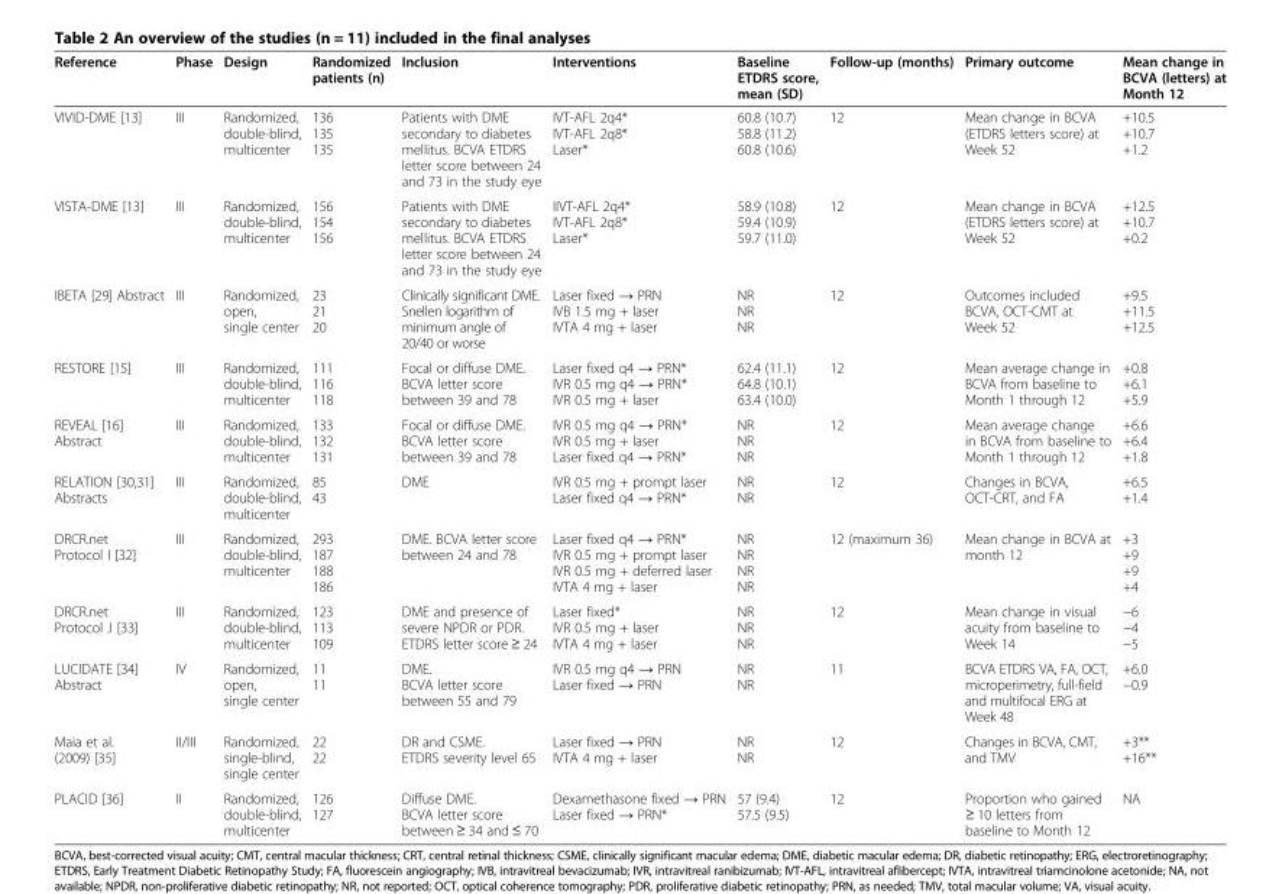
<table><thead><tr><td>Reference</td><td>Phase</td><td>Design</td><td>Randomized patients (n)</td><td>Inclusion</td><td>Interventions</td><td>Baseline ETDRS score, mean (SD)</td><td>Follow-up (months)</td><td>Primary outcome</td><td>Mean change in BCVA (letters) at Month 12</td></tr></thead><tbody><tr><td>VIVID-DME [13]</td><td>III</td><td>Randomized, double-blind, multicenter</td><td>136 135 135</td><td>Patients with DME secondary to diabetes mellitus. BCVA ETDRS letter score between 24 and 73 in the study eye</td><td>IVT-AFL 2q4* IVT-AFL 2q8* Laser*</td><td>60.8 (10.7) 58.8 (11.2) 60.8 (10.6)</td><td>12</td><td>Mean change in BCVA (ETDRS letters score) at Week 52</td><td>+10.5 +10.7 +1.2</td></tr><tr><td>VISTA-DME [13]</td><td>III</td><td>Randomized, double-blind, multicenter</td><td>156 154 156</td><td>Patients with DME secondary to diabetes mellitus. BCVA ETDRS letter score between 24 and 73 in the study eye</td><td>IIVT-AFL 2q4* IVT-AFL 2q8* Laser*</td><td>58.9 (10.8) 59.4 (10.9) 59.7 (11.0)</td><td>12</td><td>Mean change in BCVA (ETDRS letters score) at Week 52</td><td>+12.5 +10.7 +0.2</td></tr><tr><td>IBETA [29] Abstract</td><td>III</td><td>Randomized, open, single center</td><td>23 21 20</td><td>Clinically significant DME. Snellen logarithm of minimum angle of 20/40 or worse</td><td>Laser fixed → PRN IVB 1.5 mg + laser IVTA 4 mg + laser</td><td>NR NR NR</td><td>12</td><td>Outcomes included BCVA, OCT-CMT at Week 52</td><td>+9.5 +11.5 +12.5</td></tr><tr><td>RESTORE [15]</td><td>III</td><td>Randomized, double-blind, multicenter</td><td>111 116 118</td><td>Focal or diffuse DME. BCVA letter score between 39 and 78</td><td>Laser fixed q4 → PRN* IVR 0.5 mg q4 → PRN* IVR 0.5 mg + laser</td><td>62.4 (11.1) 64.8 (10.1) 63.4 (10.0)</td><td>12</td><td>Mean average change in BCVA from baseline to Month 1 through 12</td><td>+0.8 +6.1 +5.9</td></tr><tr><td>REVEAL [16] Abstract</td><td>III</td><td>Randomized, double-blind, multicenter</td><td>133 132 131</td><td>Focal or diffuse DME. BCVA letter score between 39 and 78</td><td>IVR 0.5 mg q4 → PRN* IVR 0.5 mg + laser Laser fixed q4 → PRN*</td><td>NR NR NR</td><td>12</td><td>Mean average change in BCVA from baseline to Month 1 through 12</td><td>+6.6 +6.4 +1.8</td></tr><tr><td>RELATION [30,31] Abstracts</td><td>III</td><td>Randomized, double-blind, multicenter</td><td>85 43</td><td>DME</td><td>IVR 0.5 mg + prompt laser Laser fixed q4 → PRN*</td><td>NR NR</td><td>12</td><td>Changes in BCVA, OCT-CRT, and FA</td><td>+6.5 +1.4</td></tr><tr><td>DRCR.net Protocol I [32]</td><td>III</td><td>Randomized, double-blind, multicenter</td><td>293 187 188 186</td><td>DME. BCVA letter score between 24 and 78</td><td>Laser fixed q4 → PRN* IVR 0.5 mg + prompt laser IVR 0.5 mg + deferred laser IVTA 4 mg + laser</td><td>NR NR NR NR</td><td>12 (maximum 36)</td><td>Mean change in BCVA at month 12</td><td>+3 +9 +9 +4</td></tr><tr><td>DRCR.net Protocol J [33]</td><td>III</td><td>Randomized, double-blind, multicenter</td><td>123 113 109</td><td>DME and presence of severe NPDR or PDR. ETDRS letter score ≥ 24</td><td>Laser fixed* IVR 0.5 mg + laser IVTA 4 mg + laser</td><td>NR NR NR</td><td>12</td><td>Mean change in visual acuity from baseline to Week 14</td><td>−6 −4 −5</td></tr><tr><td>LUCIDATE [34] Abstract</td><td>IV</td><td>Randomized, open, single center</td><td>11 11</td><td>DME. BCVA letter score between 55 and 79</td><td>IVR 0.5 mg q4 → PRN Laser fixed → PRN</td><td>NR NR</td><td>11</td><td>BCVA ETDRS VA, FA, OCT, microperimetry, full-field and multifocal ERG at Week 48</td><td>+6.0 −0.9</td></tr><tr><td>Maia et al. (2009) [35]</td><td>II/III</td><td>Randomized, single-blind, single center</td><td>22 22</td><td>DR and CSME. ETDRS severity level 65</td><td>Laser fixed → PRN IVTA 4 mg + laser</td><td>NR NR</td><td>12</td><td>Changes in BCVA, CMT, and TMV</td><td>+3** +16**</td></tr><tr><td>PLACID [36]</td><td>II</td><td>Randomized, double-blind, multicenter</td><td>126 127</td><td>Diffuse DME. BCVA letter score between ≥ 34 and ≤ 70</td><td>Dexamethasone fixed → PRN Laser fixed → PRN*</td><td>57 (9.4) 57.5 (9.5)</td><td>12</td><td>Proportion who gained ≥ 10 letters from baseline to Month 12</td><td>NA</td></tr></tbody></table>